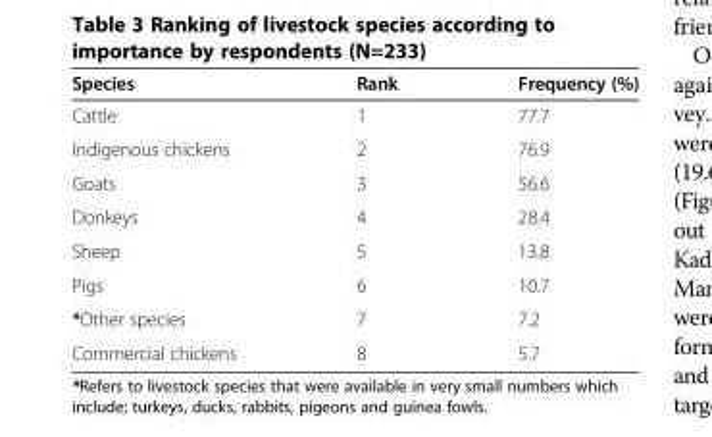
<table><thead><tr><td>Species</td><td>Rank</td><td>Frequency (%)</td></tr></thead><tbody><tr><td>Cattle</td><td>1</td><td>77.7</td></tr><tr><td>Indigenous chickens</td><td>2</td><td>76.9</td></tr><tr><td>Goats</td><td>3</td><td>56.6</td></tr><tr><td>Donkeys</td><td>4</td><td>28.4</td></tr><tr><td>Sheep</td><td>5</td><td>13.8</td></tr><tr><td>Pigs</td><td>6</td><td>10.7</td></tr><tr><td>*Other species</td><td>7</td><td>7.2</td></tr><tr><td>Commercial chickens</td><td>8</td><td>5.7</td></tr></tbody></table>